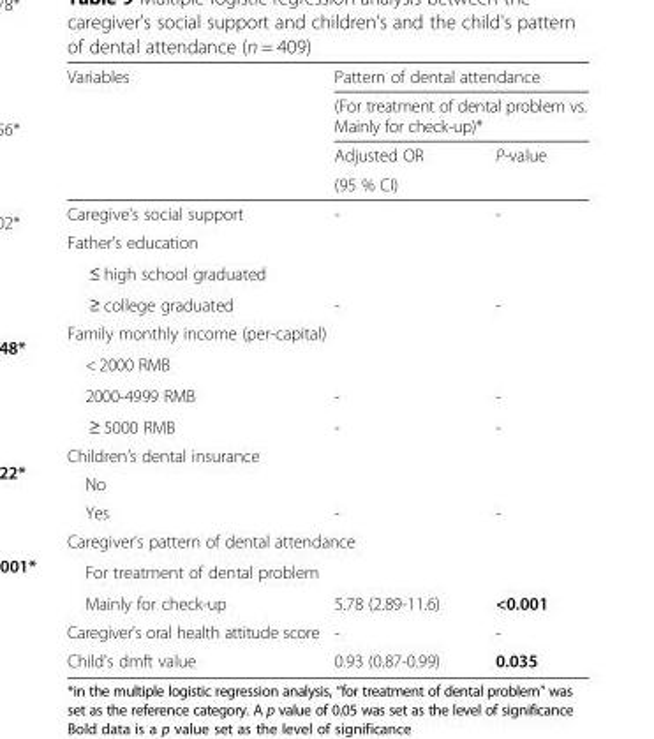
<table><thead><tr><td rowspan="4">Variables</td><td rowspan="2" colspan="2">Pattern of dental attendance (For treatment of dental problem vs. Mainly for check-up)*</td></tr><tr></tr><tr><td rowspan="2">Adjusted OR (95 % CI)</td><td rowspan="2">P-value</td></tr><tr></tr></thead><tbody><tr><td>Caregive&#x27;s social support</td><td>-</td><td>-</td></tr><tr><td colspan="3">Father’s education</td></tr><tr><td colspan="3">≤ high school graduated</td></tr><tr><td>≥ college graduated</td><td>-</td><td>-</td></tr><tr><td colspan="3">Family monthly income (per-capital)</td></tr><tr><td colspan="3">&lt; 2000 RMB</td></tr><tr><td>2000-4999 RMB</td><td>-</td><td>-</td></tr><tr><td>≥ 5000 RMB</td><td>-</td><td>-</td></tr><tr><td colspan="3">Children’s dental insurance</td></tr><tr><td colspan="3">No</td></tr><tr><td>Yes</td><td>-</td><td>-</td></tr><tr><td colspan="3">Caregiver’s pattern of dental attendance</td></tr><tr><td colspan="3">For treatment of dental problem</td></tr><tr><td>Mainly for check-up</td><td>5.78 (2.89-11.6)</td><td>&lt;0.001</td></tr><tr><td>Caregiver’s oral health attitude score</td><td>-</td><td>-</td></tr><tr><td>Child&#x27;s dmft value</td><td>0.93 (0.87-0.99)</td><td>0.035</td></tr></tbody></table>